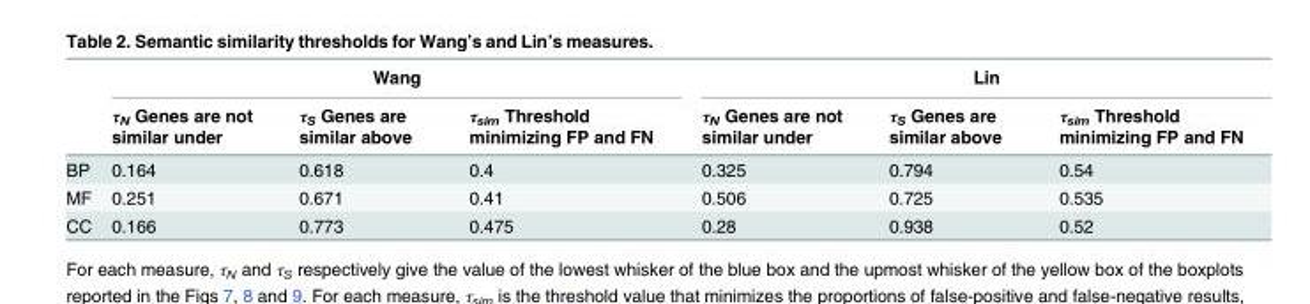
<table><thead><tr><td rowspan="2"></td><td colspan="3">Wang</td><td colspan="3">Lin</td></tr><tr><td>τ<sub>N</sub> Genes are not similar under</td><td>τ<sub>S</sub> Genes are similar above</td><td>τ<sub>sim</sub> Threshold minimizing FP and FN</td><td>τ<sub>N</sub> Genes are not similar under</td><td>τ<sub>S</sub> Genes are similar above</td><td>τ<sub>sim</sub> Threshold minimizing FP and FN</td></tr></thead><tbody><tr><td>BP</td><td>0.164</td><td>0.618</td><td>0.4</td><td>0.325</td><td>0.794</td><td>0.54</td></tr><tr><td>MF</td><td>0.251</td><td>0.671</td><td>0.41</td><td>0.506</td><td>0.725</td><td>0.535</td></tr><tr><td>CC</td><td>0.166</td><td>0.773</td><td>0.475</td><td>0.28</td><td>0.938</td><td>0.52</td></tr></tbody></table>